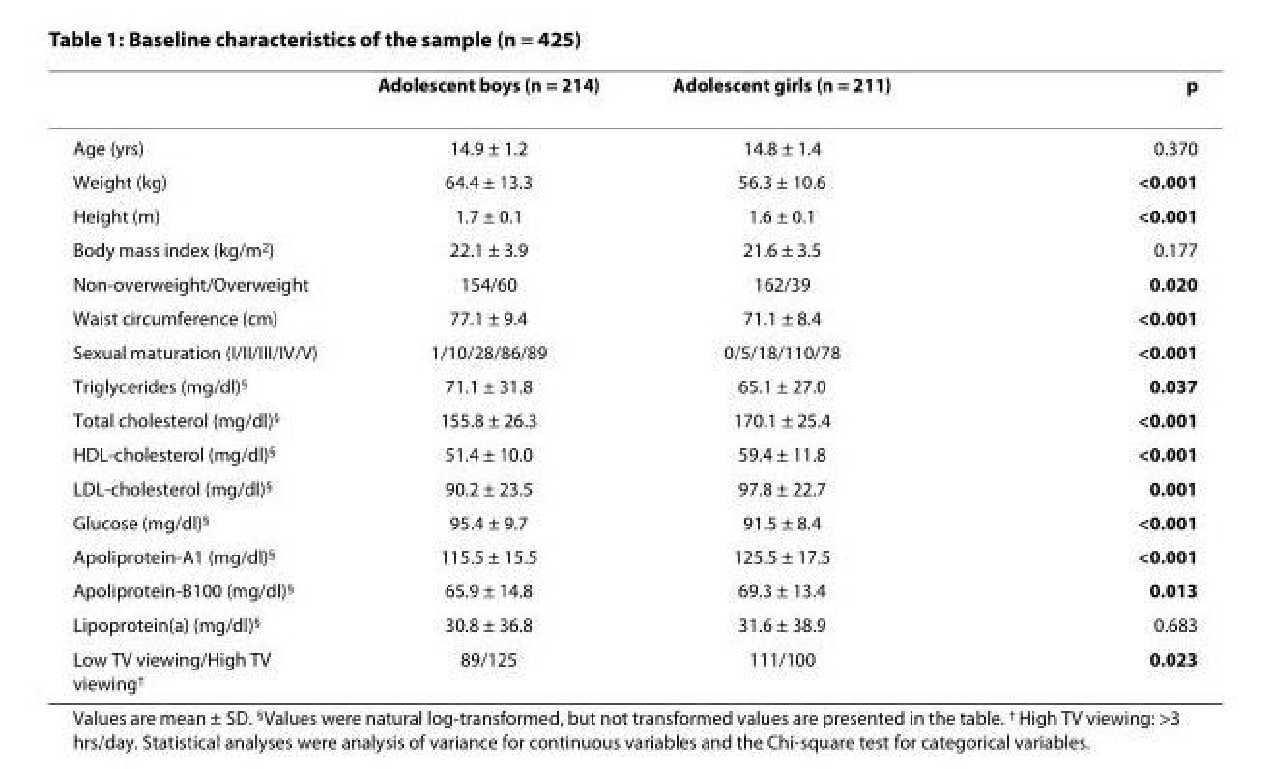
<table><thead><tr><td></td><td>Adolescent boys (n = 214)</td><td>Adolescent girls (n = 211)</td><td>p</td></tr></thead><tbody><tr><td>Age (yrs)</td><td>14.9 ± 1.2</td><td>14.8 ± 1.4</td><td>0.370</td></tr><tr><td>Weight (kg)</td><td>64.4 ± 13.3</td><td>56.3 ± 10.6</td><td>&lt;0.001</td></tr><tr><td>Height (m)</td><td>1.7 ± 0.1</td><td>1.6 ± 0.1</td><td>&lt;0.001</td></tr><tr><td>Body mass index (kg/m<sup>2</sup>)</td><td>22.1 ± 3.9</td><td>21.6 ± 3.5</td><td>0.177</td></tr><tr><td>Non-overweight/Overweight</td><td>154/60</td><td>162/39</td><td>0.020</td></tr><tr><td>Waist circumference (cm)</td><td>77.1 ± 9.4</td><td>71.1 ± 8.4</td><td>&lt;0.001</td></tr><tr><td>Sexual maturation (I/II/III/IV/V)</td><td>1/10/28/86/89</td><td>0/5/18/110/78</td><td>&lt;0.001</td></tr><tr><td>Triglycerides (mg/dl)<sup>§</sup></td><td>71.1 ± 31.8</td><td>65.1 ± 27.0</td><td>0.037</td></tr><tr><td>Total cholesterol (mg/dl)<sup>§</sup></td><td>155.8 ± 26.3</td><td>170.1 ± 25.4</td><td>&lt;0.001</td></tr><tr><td>HDL-cholesterol (mg/dl)<sup>§</sup></td><td>51.4 ± 10.0</td><td>59.4 ± 11.8</td><td>&lt;0.001</td></tr><tr><td>LDL-cholesterol (mg/dl)<sup>§</sup></td><td>90.2 ± 23.5</td><td>97.8 ± 22.7</td><td>0.001</td></tr><tr><td>Glucose (mg/dl)<sup>§</sup></td><td>95.4 ± 9.7</td><td>91.5 ± 8.4</td><td>&lt;0.001</td></tr><tr><td>Apoliprotein-A1 (mg/dl)<sup>§</sup></td><td>115.5 ± 15.5</td><td>125.5 ± 17.5</td><td>&lt;0.001</td></tr><tr><td>Apoliprotein-B100 (mg/dl)<sup>§</sup></td><td>65.9 ± 14.8</td><td>69.3 ± 13.4</td><td>0.013</td></tr><tr><td>Lipoprotein(a) (mg/dl)<sup>§</sup></td><td>30.8 ± 36.8</td><td>31.6 ± 38.9</td><td>0.683</td></tr><tr><td>Low TV viewing/High TV viewing<sup>†</sup></td><td>89/125</td><td>111/100</td><td>0.023</td></tr></tbody></table>